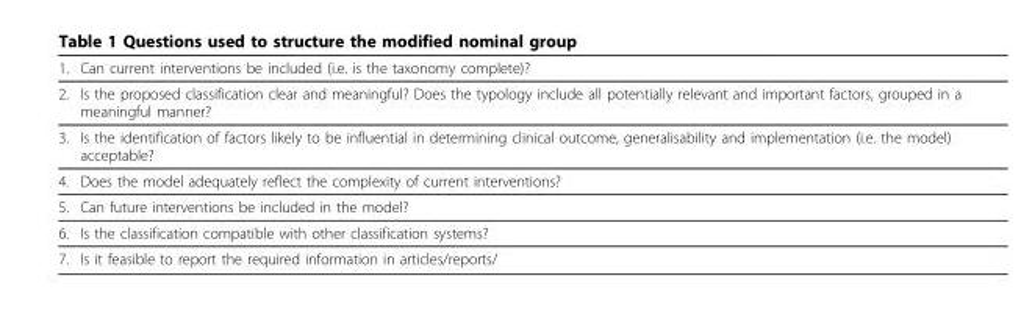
<table><thead><tr><td>1.</td><td>Can current interventions be included (i.e. is the taxonomy complete)?</td></tr></thead><tbody><tr><td>2.</td><td>Is the proposed classification clear and meaningful? Does the typology include all potentially relevant and important factors, grouped in a meaningful manner?</td></tr><tr><td>3.</td><td>Is the identification of factors likely to be influential in determining clinical outcome, generalisability and implementation (i.e. the model) acceptable?</td></tr><tr><td>4.</td><td>Does the model adequately reflect the complexity of current interventions?</td></tr><tr><td>5.</td><td>Can future interventions be included in the model?</td></tr><tr><td>6.</td><td>Is the classification compatible with other classification systems?</td></tr><tr><td>7.</td><td>Is it feasible to report the required information in articles/reports/</td></tr></tbody></table>